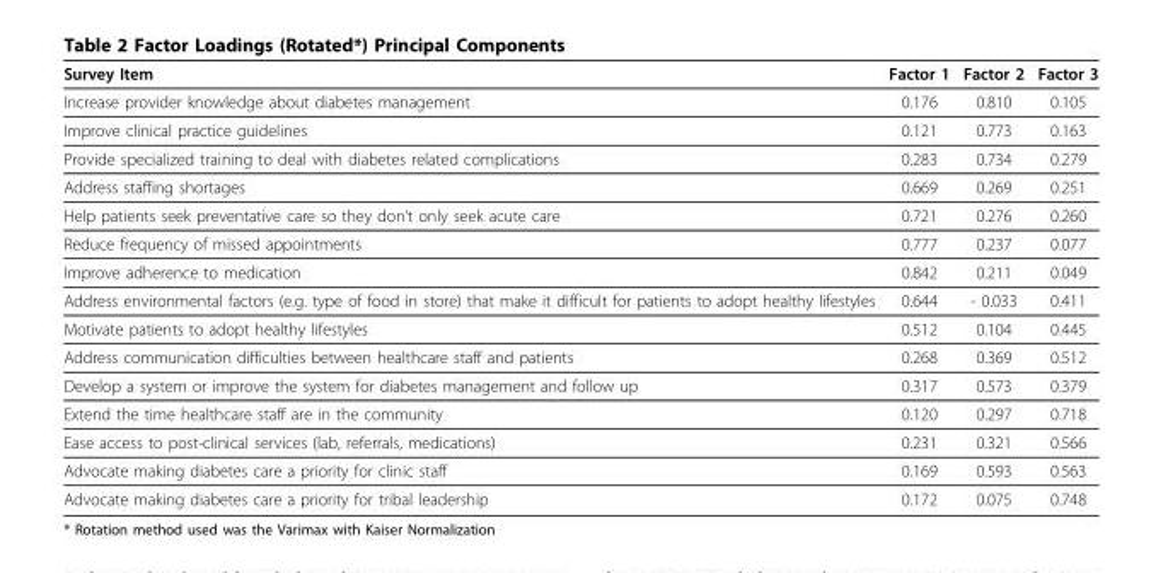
<table><thead><tr><td>Survey Item</td><td>Factor 1</td><td>Factor 2</td><td>Factor 3</td></tr></thead><tbody><tr><td>Increase provider knowledge about diabetes management</td><td>0.176</td><td>0.810</td><td>0.105</td></tr><tr><td>Improve clinical practice guidelines</td><td>0.121</td><td>0.773</td><td>0.163</td></tr><tr><td>Provide specialized training to deal with diabetes related complications</td><td>0.283</td><td>0.734</td><td>0.279</td></tr><tr><td>Address staffing shortages</td><td>0.669</td><td>0.269</td><td>0.251</td></tr><tr><td>Help patients seek preventative care so they don’t only seek acute care</td><td>0.721</td><td>0.276</td><td>0.260</td></tr><tr><td>Reduce frequency of missed appointments</td><td>0.777</td><td>0.237</td><td>0.077</td></tr><tr><td>Improve adherence to medication</td><td>0.842</td><td>0.211</td><td>0.049</td></tr><tr><td>Address environmental factors (e.g. type of food in store) that make it difficult for patients to adopt healthy lifestyles</td><td>0.644</td><td>- 0.033</td><td>0.411</td></tr><tr><td>Motivate patients to adopt healthy lifestyles</td><td>0.512</td><td>0.104</td><td>0.445</td></tr><tr><td>Address communication difficulties between healthcare staff and patients</td><td>0.268</td><td>0.369</td><td>0.512</td></tr><tr><td>Develop a system or improve the system for diabetes management and follow up</td><td>0.317</td><td>0.573</td><td>0.379</td></tr><tr><td>Extend the time healthcare staff are in the community</td><td>0.120</td><td>0.297</td><td>0.718</td></tr><tr><td>Ease access to post-clinical services (lab, referrals, medications)</td><td>0.231</td><td>0.321</td><td>0.566</td></tr><tr><td>Advocate making diabetes care a priority for clinic staff</td><td>0.169</td><td>0.593</td><td>0.563</td></tr><tr><td>Advocate making diabetes care a priority for tribal leadership</td><td>0.172</td><td>0.075</td><td>0.748</td></tr></tbody></table>